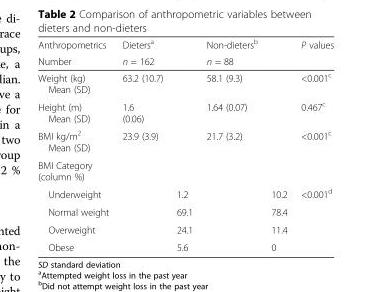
<table><thead><tr><td rowspan="2">Anthropometrics Number</td><td rowspan="2">Dieters<sup>a</sup> n = 162</td><td rowspan="2"></td><td rowspan="2">Non-dieters<sup>b</sup> n = 88</td><td rowspan="2"></td><td rowspan="2">P values</td></tr><tr></tr></thead><tbody><tr><td>Weight (kg) Mean (SD)</td><td>63.2 (10.7)</td><td></td><td>58.1 (9.3)</td><td></td><td>&lt;0.001<sup>c</sup></td></tr><tr><td>Height (m) Mean (SD)</td><td>1.6 (0.06)</td><td></td><td>1.64 (0.07)</td><td></td><td>0.467<sup>c</sup></td></tr><tr><td>BMI kg/m<sup>2</sup> Mean (SD)</td><td>23.9 (3.9)</td><td></td><td>21.7 (3.2)</td><td></td><td>&lt;0.001<sup>c</sup></td></tr><tr><td colspan="6">BMI Category (column %)</td></tr><tr><td>Underweight</td><td></td><td>1.2</td><td></td><td>10.2</td><td>&lt;0.001<sup>d</sup></td></tr><tr><td>Normal weight</td><td></td><td>69.1</td><td></td><td>78.4</td><td></td></tr><tr><td>Overweight</td><td></td><td>24.1</td><td></td><td>11.4</td><td></td></tr><tr><td>Obese</td><td></td><td>5.6</td><td></td><td>0</td><td></td></tr></tbody></table>